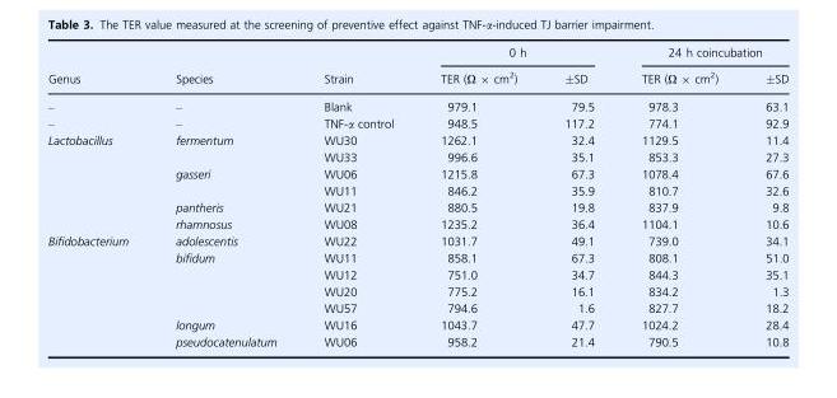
<table><thead><tr><td rowspan="2">Genus</td><td rowspan="2">Species</td><td rowspan="2">Strain</td><td colspan="2">0 h</td><td colspan="2">24 h coincubation</td></tr><tr><td>TER (Ω × cm<sup>2</sup>)</td><td>±SD</td><td>TER (Ω × cm<sup>2</sup>)</td><td>±SD</td></tr></thead><tbody><tr><td>–</td><td>–</td><td>Blank</td><td>979.1</td><td>79.5</td><td>978.3</td><td>63.1</td></tr><tr><td>–</td><td>–</td><td>TNF-α control</td><td>948.5</td><td>117.2</td><td>774.1</td><td>92.9</td></tr><tr><td rowspan="6">Lactobacillus</td><td rowspan="2">fermentum</td><td>WU30</td><td>1262.1</td><td>32.4</td><td>1129.5</td><td>11.4</td></tr><tr><td>WU33</td><td>996.6</td><td>35.1</td><td>853.3</td><td>27.3</td></tr><tr><td rowspan="2">gasseri</td><td>WU06</td><td>1215.8</td><td>67.3</td><td>1078.4</td><td>67.6</td></tr><tr><td>WU11</td><td>846.2</td><td>35.9</td><td>810.7</td><td>32.6</td></tr><tr><td>pantheris</td><td>WU21</td><td>880.5</td><td>19.8</td><td>837.9</td><td>9.8</td></tr><tr><td>rhamnosus</td><td>WU08</td><td>1235.2</td><td>36.4</td><td>1104.1</td><td>10.6</td></tr><tr><td rowspan="7">Bifidobacterium</td><td>adolescentis</td><td>WU22</td><td>1031.7</td><td>49.1</td><td>739.0</td><td>34.1</td></tr><tr><td rowspan="4">bifidum</td><td>WU11</td><td>858.1</td><td>67.3</td><td>808.1</td><td>51.0</td></tr><tr><td>WU12</td><td>751.0</td><td>34.7</td><td>844.3</td><td>35.1</td></tr><tr><td>WU20</td><td>775.2</td><td>16.1</td><td>834.2</td><td>1.3</td></tr><tr><td>WU57</td><td>794.6</td><td>1.6</td><td>827.7</td><td>18.2</td></tr><tr><td>longum</td><td>WU16</td><td>1043.7</td><td>47.7</td><td>1024.2</td><td>28.4</td></tr><tr><td>pseudocatenulatum</td><td>WU06</td><td>958.2</td><td>21.4</td><td>790.5</td><td>10.8</td></tr></tbody></table>